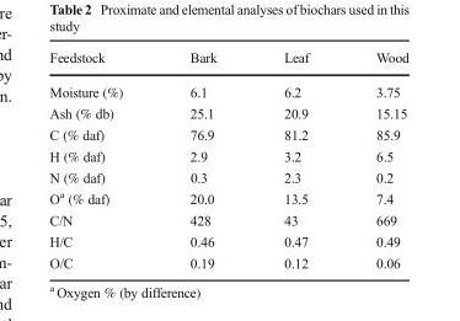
<table><thead><tr><td>Feedstock</td><td>Bark</td><td>Leaf</td><td>Wood</td></tr></thead><tbody><tr><td>Moisture (%)</td><td>6.1</td><td>6.2</td><td>3.75</td></tr><tr><td>Ash (% db)</td><td>25.1</td><td>20.9</td><td>15.15</td></tr><tr><td>C (% daf)</td><td>76.9</td><td>81.2</td><td>85.9</td></tr><tr><td>H (% daf)</td><td>2.9</td><td>3.2</td><td>6.5</td></tr><tr><td>N (% daf)</td><td>0.3</td><td>2.3</td><td>0.2</td></tr><tr><td>O<sup>a</sup> (% daf)</td><td>20.0</td><td>13.5</td><td>7.4</td></tr><tr><td>C/N</td><td>428</td><td>43</td><td>669</td></tr><tr><td>H/C</td><td>0.46</td><td>0.47</td><td>0.49</td></tr><tr><td>O/C</td><td>0.19</td><td>0.12</td><td>0.06</td></tr></tbody></table>